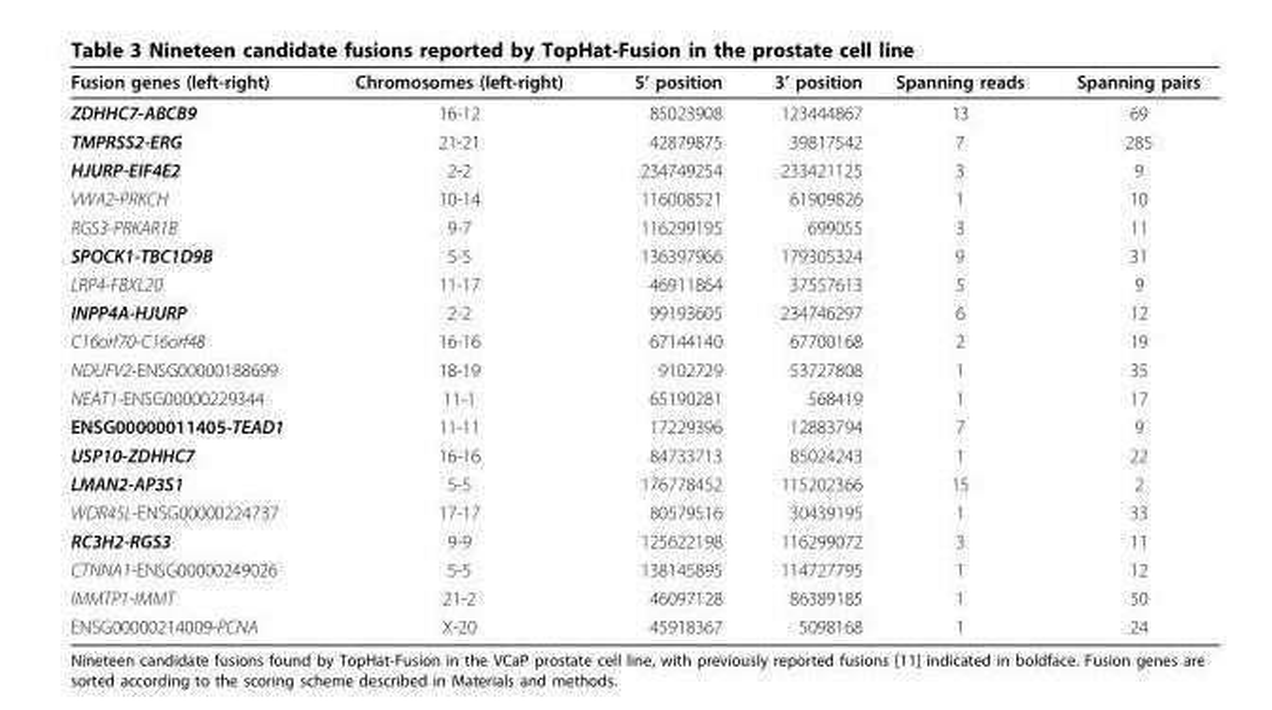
<table><thead><tr><td>Fusion genes (left-right)</td><td>Chromosomes (left-right)</td><td>5’ position</td><td>3’ position</td><td>Spanning reads</td><td>Spanning pairs</td></tr></thead><tbody><tr><td>ZDHHC7-ABCB9</td><td>16-12</td><td>85023908</td><td>123444867</td><td>13</td><td>69</td></tr><tr><td>TMPRSS2-ERG</td><td>21-21</td><td>42879875</td><td>39817542</td><td>7</td><td>285</td></tr><tr><td>HJURP-EIF4E2</td><td>2-2</td><td>234749254</td><td>233421125</td><td>3</td><td>9</td></tr><tr><td>VWA2-PRKCH</td><td>10-14</td><td>116008521</td><td>61909826</td><td>1</td><td>10</td></tr><tr><td>RGS3-PRKAR1B</td><td>9-7</td><td>116299195</td><td>699055</td><td>3</td><td>11</td></tr><tr><td>SPOCK1-TBC1D9B</td><td>5-5</td><td>136397966</td><td>179305324</td><td>9</td><td>31</td></tr><tr><td>LRP4-FBXL20</td><td>11-17</td><td>46911864</td><td>37557613</td><td>5</td><td>9</td></tr><tr><td>INPP4A-HJURP</td><td>2-2</td><td>99193605</td><td>234746297</td><td>6</td><td>12</td></tr><tr><td>C16orf70-C16orf48</td><td>16-16</td><td>67144140</td><td>67700168</td><td>2</td><td>19</td></tr><tr><td>NDUFV2-ENSG00000188699</td><td>18-19</td><td>9102729</td><td>53727808</td><td>1</td><td>35</td></tr><tr><td>NEAT1-ENSG00000229344</td><td>11-1</td><td>65190281</td><td>568419</td><td>1</td><td>17</td></tr><tr><td>ENSG00000011405-TEAD1</td><td>11-11</td><td>17229396</td><td>12883794</td><td>7</td><td>9</td></tr><tr><td>USP10-ZDHHC7</td><td>16-16</td><td>84733713</td><td>85024243</td><td>1</td><td>22</td></tr><tr><td>LMAN2-AP3S1</td><td>5-5</td><td>176778452</td><td>115202366</td><td>15</td><td>2</td></tr><tr><td>WDR45L-ENSG00000224737</td><td>17-17</td><td>80579516</td><td>30439195</td><td>1</td><td>33</td></tr><tr><td>RC3H2-RGS3</td><td>9-9</td><td>125622198</td><td>116299072</td><td>3</td><td>11</td></tr><tr><td>CTNNA1-ENSG00000249026</td><td>5-5</td><td>138145895</td><td>114727795</td><td>1</td><td>12</td></tr><tr><td>IMMTP1-IMMT</td><td>21-2</td><td>46097128</td><td>86389185</td><td>1</td><td>50</td></tr><tr><td>ENSG00000214009-PCNA</td><td>X-20</td><td>45918367</td><td>5098168</td><td>1</td><td>24</td></tr></tbody></table>